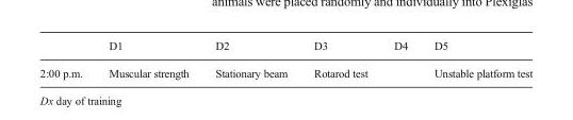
<table><thead><tr><td></td><td>D1</td><td>D2</td><td>D3</td><td>D4</td><td>D5</td></tr></thead><tbody><tr><td>2:00 p.m.</td><td>Muscular strength</td><td>Stationary beam</td><td>Rotarod test</td><td></td><td>Unstable platform test</td></tr></tbody></table>